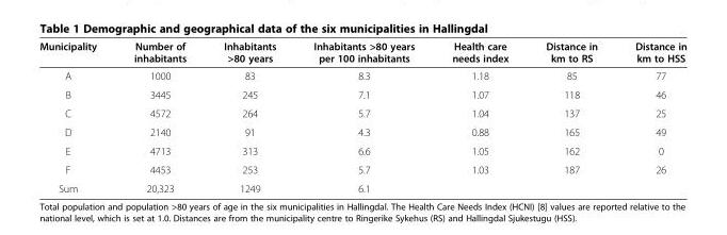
<table><thead><tr><td>Municipality</td><td>Number of inhabitants</td><td>Inhabitants &gt;80 years</td><td>Inhabitants &gt;80 years per 100 inhabitants</td><td>Health care needs index</td><td>Distance in km to RS</td><td>Distance in km to HSS</td></tr></thead><tbody><tr><td>A</td><td>1000</td><td>83</td><td>8.3</td><td>1.18</td><td>85</td><td>77</td></tr><tr><td>B</td><td>3445</td><td>245</td><td>7.1</td><td>1.07</td><td>118</td><td>46</td></tr><tr><td>C</td><td>4572</td><td>264</td><td>5.7</td><td>1.04</td><td>137</td><td>25</td></tr><tr><td>D</td><td>2140</td><td>91</td><td>4.3</td><td>0.88</td><td>165</td><td>49</td></tr><tr><td>E</td><td>4713</td><td>313</td><td>6.6</td><td>1.05</td><td>162</td><td>0</td></tr><tr><td>F</td><td>4453</td><td>253</td><td>5.7</td><td>1.03</td><td>187</td><td>26</td></tr><tr><td>Sum</td><td>20,323</td><td>1249</td><td>6.1</td><td></td><td></td><td></td></tr></tbody></table>